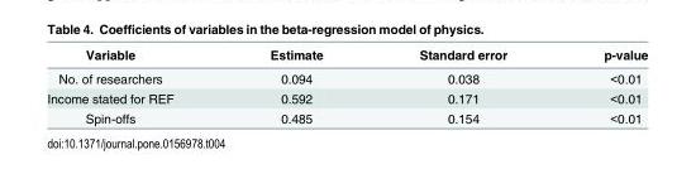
<table><thead><tr><td>Variable</td><td>Estimate</td><td>Standard error</td><td>p-value</td></tr></thead><tbody><tr><td>No. of researchers</td><td>0.094</td><td>0.038</td><td>&lt;0.01</td></tr><tr><td>Income stated for REF</td><td>0.592</td><td>0.171</td><td>&lt;0.01</td></tr><tr><td>Spin-offs</td><td>0.485</td><td>0.154</td><td>&lt;0.01</td></tr></tbody></table>